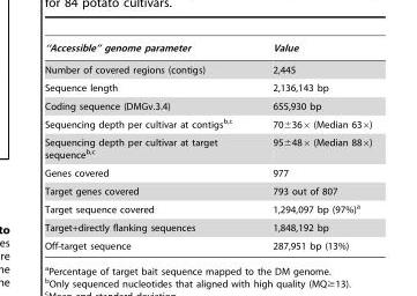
<table><thead><tr><td>‘‘Accessible’’ genome parameter</td><td>Value</td></tr></thead><tbody><tr><td>Number of covered regions (contigs)</td><td>2,445</td></tr><tr><td>Sequence length</td><td>2,136,143 bp</td></tr><tr><td>Coding sequence (DMGv.3.4)</td><td>655,930 bp</td></tr><tr><td>Sequencing depth per cultivar at contigsb,c</td><td>70±36× (Median 63×)</td></tr><tr><td>Sequencing depth per cultivar at target sequenceb,c</td><td>95±48× (Median 88×)</td></tr><tr><td>Genes covered</td><td>977</td></tr><tr><td>Target genes covered</td><td>793 out of 807</td></tr><tr><td>Target sequence covered</td><td>1,294,097 bp (97%)<sup>a</sup></td></tr><tr><td>Target+directly flanking sequences</td><td>1,848,192 bp</td></tr><tr><td>Off-target sequence</td><td>287,951 bp (13%)</td></tr></tbody></table>